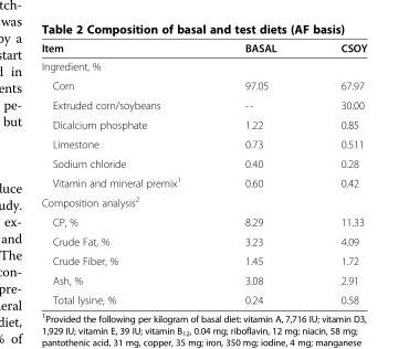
<table><thead><tr><td>Item</td><td>BASAL</td><td>CSOY</td></tr></thead><tbody><tr><td colspan="3">Ingredient, %</td></tr><tr><td>Corn</td><td>97.05</td><td>67.97</td></tr><tr><td>Extruded corn/soybeans</td><td>--</td><td>30.00</td></tr><tr><td>Dicalcium phosphate</td><td>1.22</td><td>0.85</td></tr><tr><td>Limestone</td><td>0.73</td><td>0.511</td></tr><tr><td>Sodium chloride</td><td>0.40</td><td>0.28</td></tr><tr><td>Vitamin and mineral premix<sup>1</sup></td><td>0.60</td><td>0.42</td></tr><tr><td colspan="3">Composition analysis<sup>2</sup></td></tr><tr><td>CP, %</td><td>8.29</td><td>11.33</td></tr><tr><td>Crude Fat, %</td><td>3.23</td><td>4.09</td></tr><tr><td>Crude Fiber, %</td><td>1.45</td><td>1.72</td></tr><tr><td>Ash, %</td><td>3.08</td><td>2.91</td></tr><tr><td>Total lysine, %</td><td>0.24</td><td>0.58</td></tr></tbody></table>